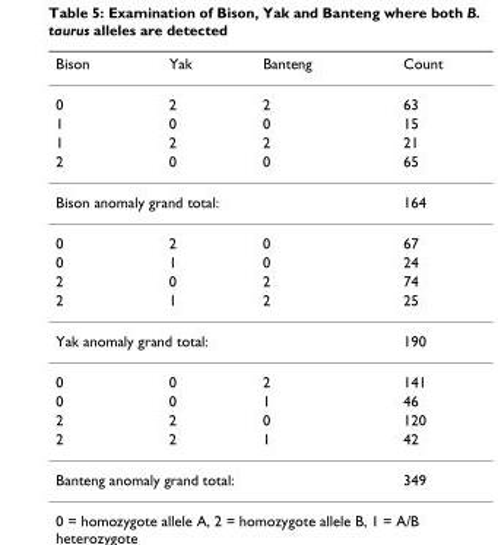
<table><thead><tr><td>Bison</td><td>Yak</td><td>Banteng</td><td>Count</td></tr></thead><tbody><tr><td>0</td><td>2</td><td>2</td><td>63</td></tr><tr><td>1</td><td>0</td><td>0</td><td>15</td></tr><tr><td>1</td><td>2</td><td>2</td><td>21</td></tr><tr><td>2</td><td>0</td><td>0</td><td>65</td></tr><tr><td colspan="3">Bison anomaly grand total:</td><td>164</td></tr><tr><td>0</td><td>2</td><td>0</td><td>67</td></tr><tr><td>0</td><td>1</td><td>0</td><td>24</td></tr><tr><td>2</td><td>0</td><td>2</td><td>74</td></tr><tr><td>2</td><td>1</td><td>2</td><td>25</td></tr><tr><td colspan="3">Yak anomaly grand total:</td><td>190</td></tr><tr><td>0</td><td>0</td><td>2</td><td>141</td></tr><tr><td>0</td><td>0</td><td>1</td><td>46</td></tr><tr><td>2</td><td>2</td><td>0</td><td>120</td></tr><tr><td>2</td><td>2</td><td>1</td><td>42</td></tr><tr><td colspan="3">Banteng anomaly grand total:</td><td>349</td></tr></tbody></table>